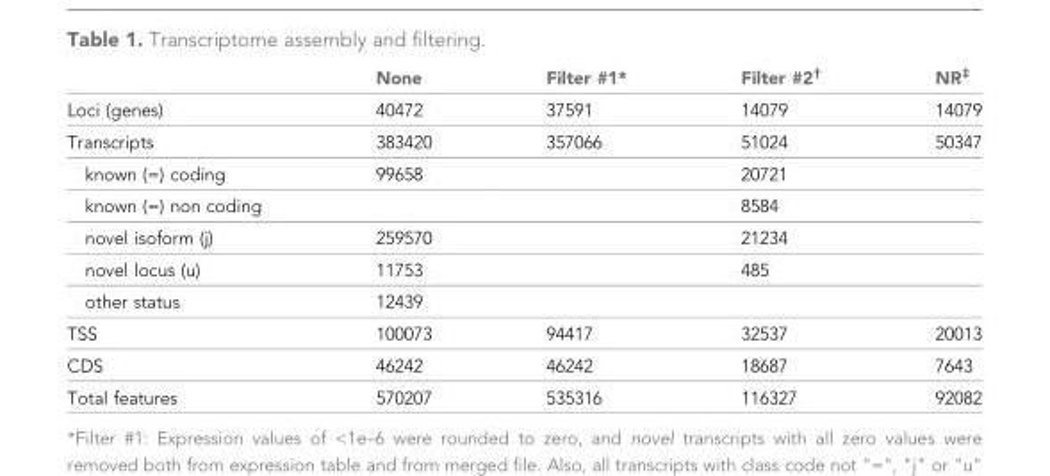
<table><thead><tr><td></td><td>None</td><td>Filter #1*</td><td>Filter #2<sup>†</sup></td><td>NR<sup>‡</sup></td></tr></thead><tbody><tr><td>Loci (genes)</td><td>40472</td><td>37591</td><td>14079</td><td>14079</td></tr><tr><td>Transcripts</td><td>383420</td><td>357066</td><td>51024</td><td>50347</td></tr><tr><td>known (=) coding</td><td>99658</td><td></td><td>20721</td><td></td></tr><tr><td>known (=) non coding</td><td></td><td></td><td>8584</td><td></td></tr><tr><td>novel isoform (j)</td><td>259570</td><td></td><td>21234</td><td></td></tr><tr><td>novel locus (u)</td><td>11753</td><td></td><td>485</td><td></td></tr><tr><td>other status</td><td>12439</td><td></td><td></td><td></td></tr><tr><td>TSS</td><td>100073</td><td>94417</td><td>32537</td><td>20013</td></tr><tr><td>CDS</td><td>46242</td><td>46242</td><td>18687</td><td>7643</td></tr><tr><td>Total features</td><td>570207</td><td>535316</td><td>116327</td><td>92082</td></tr></tbody></table>